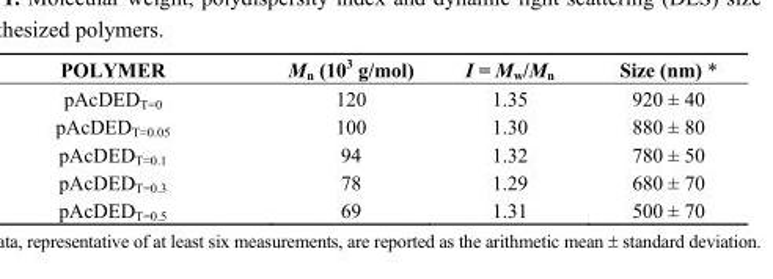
<table><thead><tr><td>POLYMER</td><td>M<sub>n</sub> (10<sup>3</sup> g/mol)</td><td>I = M<sub>w</sub>/M<sub>n</sub></td><td>Size (nm) *</td></tr></thead><tbody><tr><td>pAcDED<sub>T=0</sub></td><td>120</td><td>1.35</td><td>920 ± 40</td></tr><tr><td>pAcDED<sub>T=0.05</sub></td><td>100</td><td>1.30</td><td>880 ± 80</td></tr><tr><td>pAcDED<sub>T=0.1</sub></td><td>94</td><td>1.32</td><td>780 ± 50</td></tr><tr><td>pAcDED<sub>T=0.3</sub></td><td>78</td><td>1.29</td><td>680 ± 70</td></tr><tr><td>pAcDED<sub>T=0.5</sub></td><td>69</td><td>1.31</td><td>500 ± 70</td></tr></tbody></table>